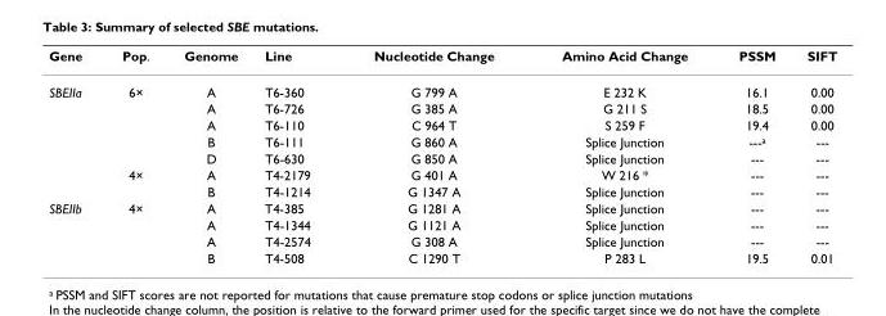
<table><thead><tr><td>Gene</td><td>Pop.</td><td>Genome</td><td>Line</td><td>Nucleotide Change</td><td>Amino Acid Change</td><td>PSSM</td><td>SIFT</td></tr></thead><tbody><tr><td rowspan="7">SBEIIa</td><td>6×</td><td>A</td><td>T6-360</td><td>G 799 A</td><td>E 232 K</td><td>16.1</td><td>0.00</td></tr><tr><td></td><td>A</td><td>T6-726</td><td>G 385 A</td><td>G 211 S</td><td>18.5</td><td>0.00</td></tr><tr><td></td><td>A</td><td>T6-110</td><td>C 964 T</td><td>S 259 F</td><td>19.4</td><td>0.00</td></tr><tr><td></td><td>B</td><td>T6-111</td><td>G 860 A</td><td>Splice Junction</td><td>---<sup>a</sup></td><td>---</td></tr><tr><td></td><td>D</td><td>T6-630</td><td>G 850 A</td><td>Splice Junction</td><td>---</td><td>---</td></tr><tr><td>4×</td><td>A</td><td>T4-2179</td><td>G 401 A</td><td>W 216 *</td><td>---</td><td>---</td></tr><tr><td></td><td>B</td><td>T4-1214</td><td>G 1347 A</td><td>Splice Junction</td><td>---</td><td>---</td></tr><tr><td rowspan="4">SBEIIb</td><td>4×</td><td>A</td><td>T4-385</td><td>G 1281 A</td><td>Splice Junction</td><td>---</td><td>---</td></tr><tr><td></td><td>A</td><td>T4-1344</td><td>G 1121 A</td><td>Splice Junction</td><td>---</td><td>---</td></tr><tr><td></td><td>A</td><td>T4-2574</td><td>G 308 A</td><td>Splice Junction</td><td>---</td><td>---</td></tr><tr><td></td><td>B</td><td>T4-508</td><td>C 1290 T</td><td>P 283 L</td><td>19.5</td><td>0.01</td></tr></tbody></table>